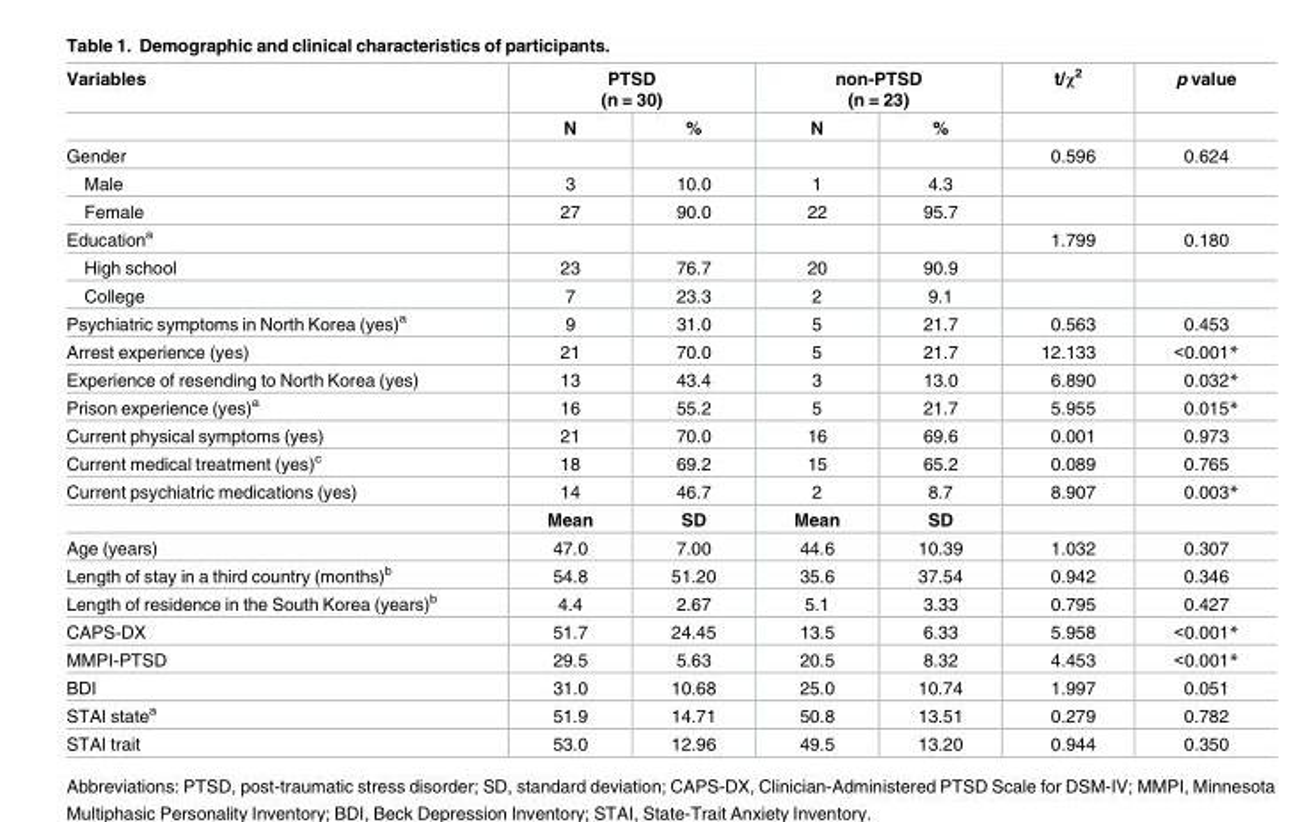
<table><thead><tr><td rowspan="2">Variables</td><td colspan="2">PTSD (n = 30)</td><td colspan="2">non-PTSD (n = 23)</td><td rowspan="2">t/χ<sup>2</sup></td><td rowspan="2">p value</td></tr><tr><td>N</td><td>%</td><td>N</td><td>%</td></tr></thead><tbody><tr><td>Gender</td><td></td><td></td><td></td><td></td><td>0.596</td><td>0.624</td></tr><tr><td>Male</td><td>3</td><td>10.0</td><td>1</td><td>4.3</td><td></td><td></td></tr><tr><td>Female</td><td>27</td><td>90.0</td><td>22</td><td>95.7</td><td></td><td></td></tr><tr><td>Education<sup>a</sup></td><td></td><td></td><td></td><td></td><td>1.799</td><td>0.180</td></tr><tr><td>High school</td><td>23</td><td>76.7</td><td>20</td><td>90.9</td><td></td><td></td></tr><tr><td>College</td><td>7</td><td>23.3</td><td>2</td><td>9.1</td><td></td><td></td></tr><tr><td>Psychiatric symptoms in North Korea (yes)<sup>a</sup></td><td>9</td><td>31.0</td><td>5</td><td>21.7</td><td>0.563</td><td>0.453</td></tr><tr><td>Arrest experience (yes)</td><td>21</td><td>70.0</td><td>5</td><td>21.7</td><td>12.133</td><td>&lt;0.001*</td></tr><tr><td>Experience of resending to North Korea (yes)</td><td>13</td><td>43.4</td><td>3</td><td>13.0</td><td>6.890</td><td>0.032*</td></tr><tr><td>Prison experience (yes)<sup>a</sup></td><td>16</td><td>55.2</td><td>5</td><td>21.7</td><td>5.955</td><td>0.015*</td></tr><tr><td>Current physical symptoms (yes)</td><td>21</td><td>70.0</td><td>16</td><td>69.6</td><td>0.001</td><td>0.973</td></tr><tr><td>Current medical treatment (yes)<sup>c</sup></td><td>18</td><td>69.2</td><td>15</td><td>65.2</td><td>0.089</td><td>0.765</td></tr><tr><td rowspan="2">Current psychiatric medications (yes)</td><td>14</td><td>46.7</td><td>2</td><td>8.7</td><td>8.907</td><td>0.003*</td></tr><tr><td>Mean</td><td>SD</td><td>Mean</td><td>SD</td><td></td><td></td></tr><tr><td>Age (years)</td><td>47.0</td><td>7.00</td><td>44.6</td><td>10.39</td><td>1.032</td><td>0.307</td></tr><tr><td>Length of stay in a third country (months)<sup>b</sup></td><td>54.8</td><td>51.20</td><td>35.6</td><td>37.54</td><td>0.942</td><td>0.346</td></tr><tr><td>Length of residence in the South Korea (years)<sup>b</sup></td><td>4.4</td><td>2.67</td><td>5.1</td><td>3.33</td><td>0.795</td><td>0.427</td></tr><tr><td>CAPS-DX</td><td>51.7</td><td>24.45</td><td>13.5</td><td>6.33</td><td>5.958</td><td>&lt;0.001*</td></tr><tr><td>MMPI-PTSD</td><td>29.5</td><td>5.63</td><td>20.5</td><td>8.32</td><td>4.453</td><td>&lt;0.001*</td></tr><tr><td>BDI</td><td>31.0</td><td>10.68</td><td>25.0</td><td>10.74</td><td>1.997</td><td>0.051</td></tr><tr><td>STAI state<sup>a</sup></td><td>51.9</td><td>14.71</td><td>50.8</td><td>13.51</td><td>0.279</td><td>0.782</td></tr><tr><td>STAI trait</td><td>53.0</td><td>12.96</td><td>49.5</td><td>13.20</td><td>0.944</td><td>0.350</td></tr></tbody></table>